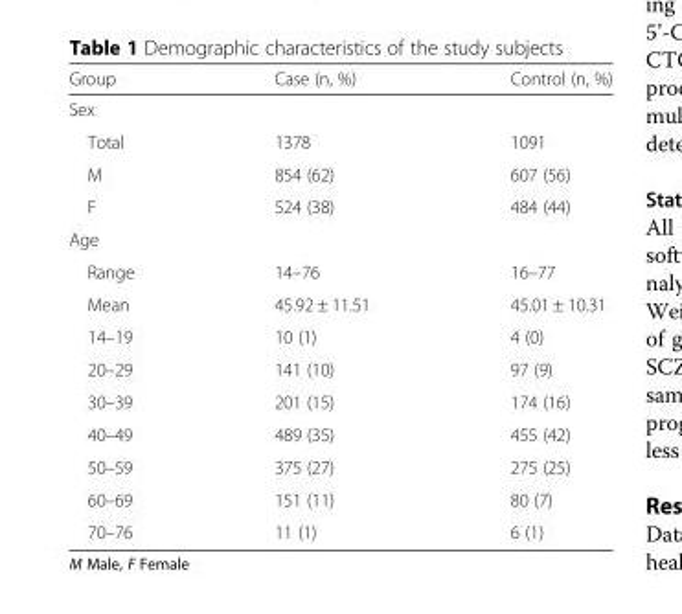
<table><thead><tr><td>Group</td><td>Case (n, %)</td><td>Control (n, %)</td></tr></thead><tbody><tr><td colspan="3">Sex</td></tr><tr><td>Total</td><td>1378</td><td>1091</td></tr><tr><td>M</td><td>854 (62)</td><td>607 (56)</td></tr><tr><td>F</td><td>524 (38)</td><td>484 (44)</td></tr><tr><td colspan="3">Age</td></tr><tr><td>Range</td><td>14–76</td><td>16–77</td></tr><tr><td>Mean</td><td>45.92 ± 11.51</td><td>45.01 ± 10.31</td></tr><tr><td>14–19</td><td>10 (1)</td><td>4 (0)</td></tr><tr><td>20–29</td><td>141 (10)</td><td>97 (9)</td></tr><tr><td>30–39</td><td>201 (15)</td><td>174 (16)</td></tr><tr><td>40–49</td><td>489 (35)</td><td>455 (42)</td></tr><tr><td>50–59</td><td>375 (27)</td><td>275 (25)</td></tr><tr><td>60–69</td><td>151 (11)</td><td>80 (7)</td></tr><tr><td>70–76</td><td>11 (1)</td><td>6 (1)</td></tr></tbody></table>